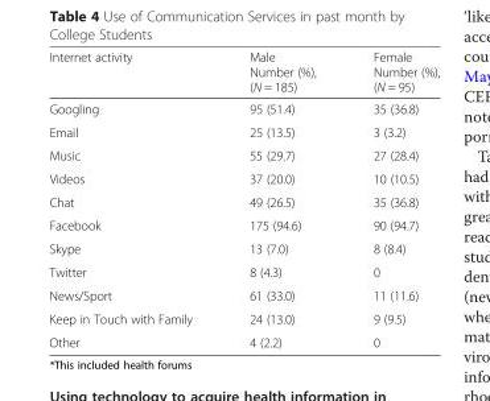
<table><thead><tr><td>Internet activity</td><td>Male Number (%), (N = 185)</td><td>Female Number (%), (N = 95)</td></tr></thead><tbody><tr><td>Googling</td><td>95 (51.4)</td><td>35 (36.8)</td></tr><tr><td>Email</td><td>25 (13.5)</td><td>3 (3.2)</td></tr><tr><td>Music</td><td>55 (29.7)</td><td>27 (28.4)</td></tr><tr><td>Videos</td><td>37 (20.0)</td><td>10 (10.5)</td></tr><tr><td>Chat</td><td>49 (26.5)</td><td>35 (36.8)</td></tr><tr><td>Facebook</td><td>175 (94.6)</td><td>90 (94.7)</td></tr><tr><td>Skype</td><td>13 (7.0)</td><td>8 (8.4)</td></tr><tr><td>Twitter</td><td>8 (4.3)</td><td>0</td></tr><tr><td>News/Sport</td><td>61 (33.0)</td><td>11 (11.6)</td></tr><tr><td>Keep in Touch with Family</td><td>24 (13.0)</td><td>9 (9.5)</td></tr><tr><td>Other</td><td>4 (2.2)</td><td>0</td></tr></tbody></table>